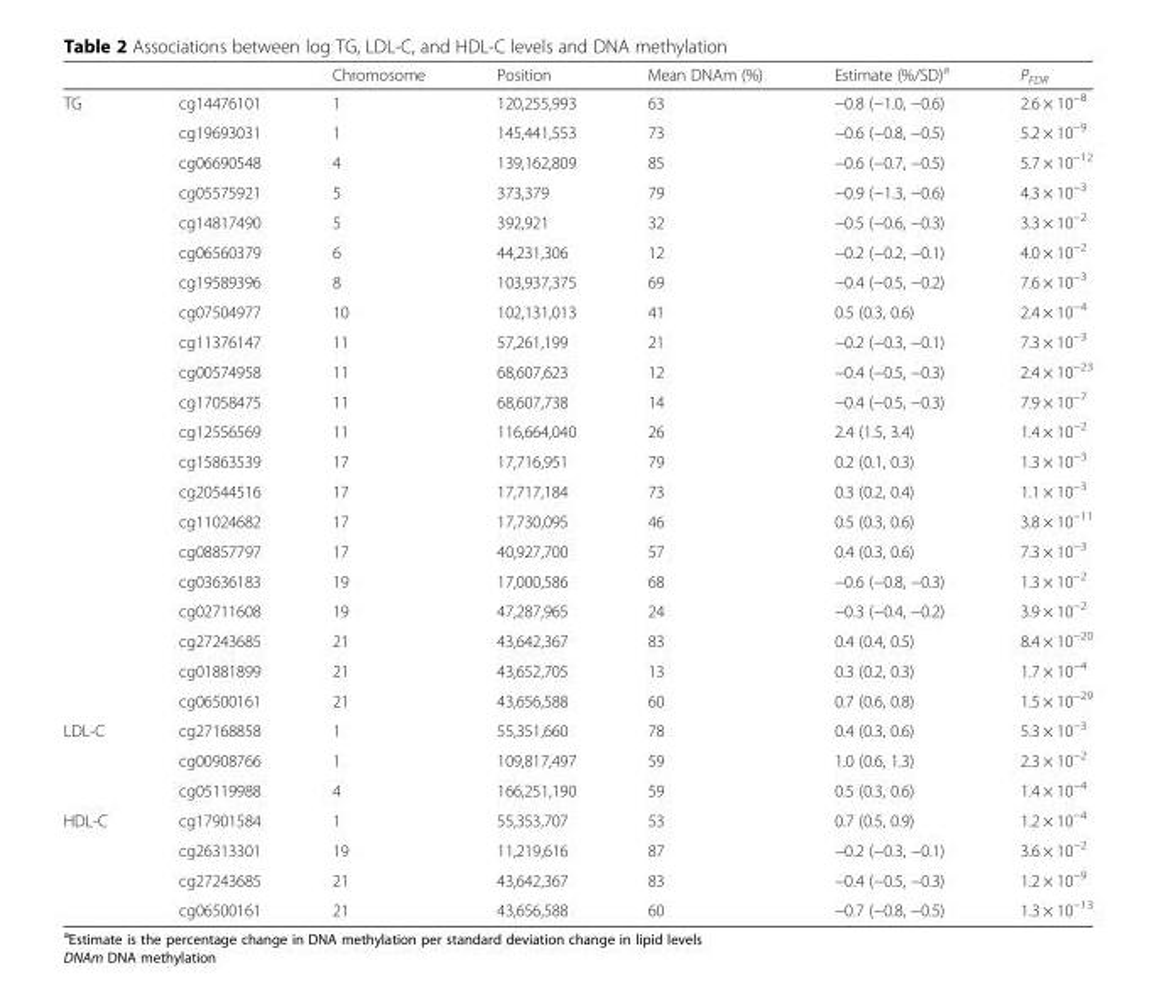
<table><thead><tr><td></td><td></td><td>Chromosome</td><td>Position</td><td>Mean DNAm (%)</td><td>Estimate (%/SD)<sup>a</sup></td><td>P<sub>FDR</sub></td></tr></thead><tbody><tr><td rowspan="21">TG</td><td>cg14476101</td><td>1</td><td>120,255,993</td><td>63</td><td>−0.8 (−1.0, −0.6)</td><td>2.6 × 10<sup>−8</sup></td></tr><tr><td>cg19693031</td><td>1</td><td>145,441,553</td><td>73</td><td>−0.6 (−0.8, −0.5)</td><td>5.2 × 10<sup>−9</sup></td></tr><tr><td>cg06690548</td><td>4</td><td>139,162,809</td><td>85</td><td>−0.6 (−0.7, −0.5)</td><td>5.7 × 10<sup>−12</sup></td></tr><tr><td>cg05575921</td><td>5</td><td>373,379</td><td>79</td><td>−0.9 (−1.3, −0.6)</td><td>4.3 × 10<sup>−3</sup></td></tr><tr><td>cg14817490</td><td>5</td><td>392,921</td><td>32</td><td>−0.5 (−0.6, −0.3)</td><td>3.3 × 10<sup>−2</sup></td></tr><tr><td>cg06560379</td><td>6</td><td>44,231,306</td><td>12</td><td>−0.2 (−0.2, −0.1)</td><td>4.0 × 10<sup>−2</sup></td></tr><tr><td>cg19589396</td><td>8</td><td>103,937,375</td><td>69</td><td>−0.4 (−0.5, −0.2)</td><td>7.6 × 10<sup>−3</sup></td></tr><tr><td>cg07504977</td><td>10</td><td>102,131,013</td><td>41</td><td>0.5 (0.3, 0.6)</td><td>2.4 × 10<sup>−4</sup></td></tr><tr><td>cg11376147</td><td>11</td><td>57,261,199</td><td>21</td><td>−0.2 (−0.3, −0.1)</td><td>7.3 × 10<sup>−3</sup></td></tr><tr><td>cg00574958</td><td>11</td><td>68,607,623</td><td>12</td><td>−0.4 (−0.5, −0.3)</td><td>2.4 × 10<sup>−23</sup></td></tr><tr><td>cg17058475</td><td>11</td><td>68,607,738</td><td>14</td><td>−0.4 (−0.5, −0.3)</td><td>7.9 × 10<sup>−7</sup></td></tr><tr><td>cg12556569</td><td>11</td><td>116,664,040</td><td>26</td><td>2.4 (1.5, 3.4)</td><td>1.4 × 10<sup>−2</sup></td></tr><tr><td>cg15863539</td><td>17</td><td>17,716,951</td><td>79</td><td>0.2 (0.1, 0.3)</td><td>1.3 × 10<sup>−3</sup></td></tr><tr><td>cg20544516</td><td>17</td><td>17,717,184</td><td>73</td><td>0.3 (0.2, 0.4)</td><td>1.1 × 10<sup>−3</sup></td></tr><tr><td>cg11024682</td><td>17</td><td>17,730,095</td><td>46</td><td>0.5 (0.3, 0.6)</td><td>3.8 × 10<sup>−11</sup></td></tr><tr><td>cg08857797</td><td>17</td><td>40,927,700</td><td>57</td><td>0.4 (0.3, 0.6)</td><td>7.3 × 10<sup>−3</sup></td></tr><tr><td>cg03636183</td><td>19</td><td>17,000,586</td><td>68</td><td>−0.6 (−0.8, −0.3)</td><td>1.3 × 10<sup>−2</sup></td></tr><tr><td>cg02711608</td><td>19</td><td>47,287,965</td><td>24</td><td>−0.3 (−0.4, −0.2)</td><td>3.9 × 10<sup>−2</sup></td></tr><tr><td>cg27243685</td><td>21</td><td>43,642,367</td><td>83</td><td>0.4 (0.4, 0.5)</td><td>8.4 × 10<sup>−20</sup></td></tr><tr><td>cg01881899</td><td>21</td><td>43,652,705</td><td>13</td><td>0.3 (0.2, 0.3)</td><td>1.7 × 10<sup>−4</sup></td></tr><tr><td>cg06500161</td><td>21</td><td>43,656,588</td><td>60</td><td>0.7 (0.6, 0.8)</td><td>1.5 × 10<sup>−29</sup></td></tr><tr><td rowspan="3">LDL-C</td><td>cg27168858</td><td>1</td><td>55,351,660</td><td>78</td><td>0.4 (0.3, 0.6)</td><td>5.3 × 10<sup>−3</sup></td></tr><tr><td>cg00908766</td><td>1</td><td>109,817,497</td><td>59</td><td>1.0 (0.6, 1.3)</td><td>2.3 × 10<sup>−2</sup></td></tr><tr><td>cg05119988</td><td>4</td><td>166,251,190</td><td>59</td><td>0.5 (0.3, 0.6)</td><td>1.4 × 10<sup>−4</sup></td></tr><tr><td rowspan="4">HDL-C</td><td>cg17901584</td><td>1</td><td>55,353,707</td><td>53</td><td>0.7 (0.5, 0.9)</td><td>1.2 × 10<sup>−4</sup></td></tr><tr><td>cg26313301</td><td>19</td><td>11,219,616</td><td>87</td><td>−0.2 (−0.3, −0.1)</td><td>3.6 × 10<sup>−2</sup></td></tr><tr><td>cg27243685</td><td>21</td><td>43,642,367</td><td>83</td><td>−0.4 (−0.5, −0.3)</td><td>1.2 × 10<sup>−9</sup></td></tr><tr><td>cg06500161</td><td>21</td><td>43,656,588</td><td>60</td><td>−0.7 (−0.8, −0.5)</td><td>1.3 × 10<sup>−13</sup></td></tr></tbody></table>